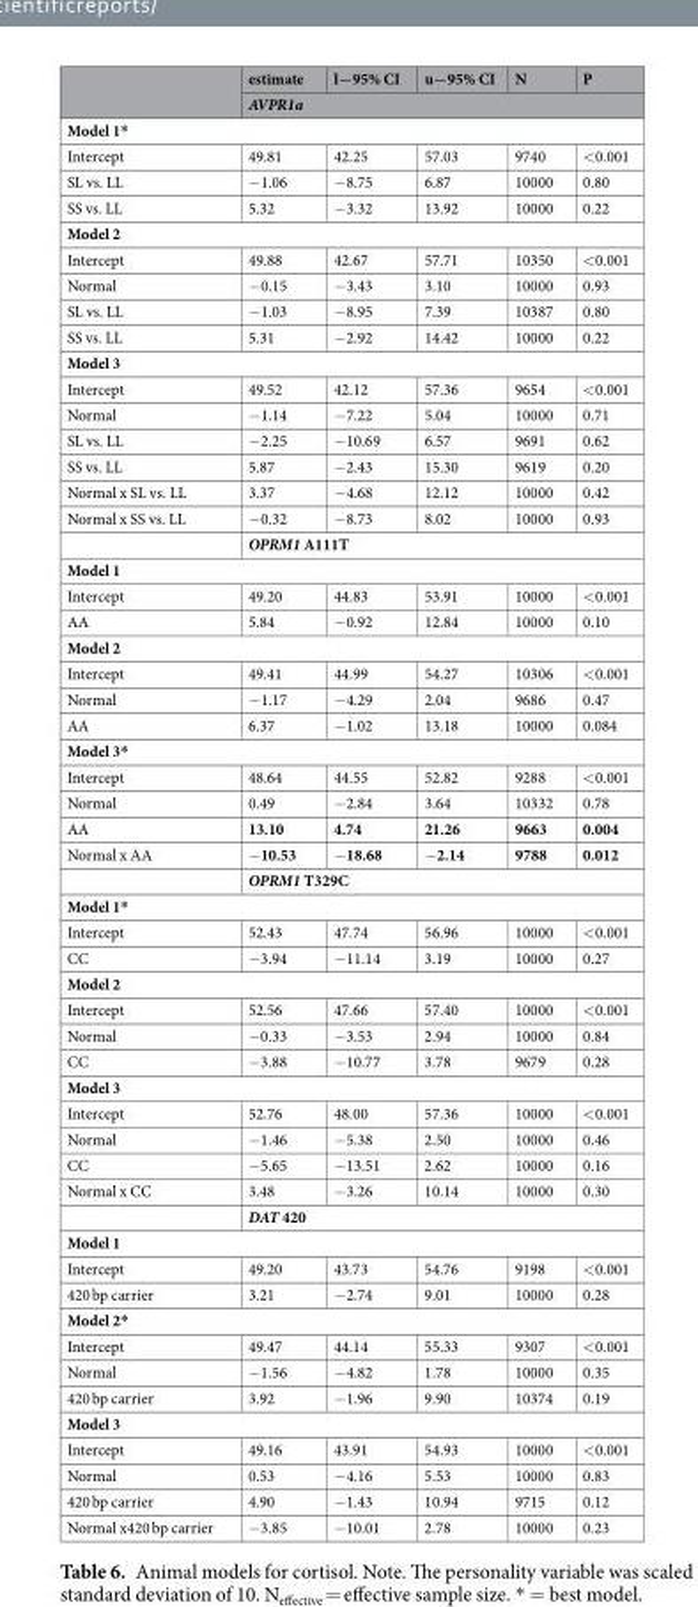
<table><thead><tr><td rowspan="2"></td><td>estimate</td><td>l−95% CI</td><td>u−95% CI</td><td>N</td><td>P</td></tr><tr><td colspan="5">AVPR1a</td></tr></thead><tbody><tr><td colspan="6">Model 1*</td></tr><tr><td>Intercept</td><td>49.81</td><td>42.25</td><td>57.03</td><td>9740</td><td>&lt;0.001</td></tr><tr><td>SL vs. LL</td><td>−1.06</td><td>−8.75</td><td>6.87</td><td>10000</td><td>0.80</td></tr><tr><td>SS vs. LL</td><td>5.32</td><td>−3.32</td><td>13.92</td><td>10000</td><td>0.22</td></tr><tr><td colspan="6">Model 2</td></tr><tr><td>Intercept</td><td>49.88</td><td>42.67</td><td>57.71</td><td>10350</td><td>&lt;0.001</td></tr><tr><td>Normal</td><td>−0.15</td><td>−3.43</td><td>3.10</td><td>10000</td><td>0.93</td></tr><tr><td>SL vs. LL</td><td>−1.03</td><td>−8.95</td><td>7.39</td><td>10387</td><td>0.80</td></tr><tr><td>SS vs. LL</td><td>5.31</td><td>−2.92</td><td>14.42</td><td>10000</td><td>0.22</td></tr><tr><td colspan="6">Model 3</td></tr><tr><td>Intercept</td><td>49.52</td><td>42.12</td><td>57.36</td><td>9654</td><td>&lt;0.001</td></tr><tr><td>Normal</td><td>−1.14</td><td>−7.22</td><td>5.04</td><td>10000</td><td>0.71</td></tr><tr><td>SL vs. LL</td><td>−2.25</td><td>−10.69</td><td>6.57</td><td>9691</td><td>0.62</td></tr><tr><td>SS vs. LL</td><td>5.87</td><td>−2.43</td><td>15.30</td><td>9619</td><td>0.20</td></tr><tr><td>Normal x SL vs. LL</td><td>3.37</td><td>−4.68</td><td>12.12</td><td>10000</td><td>0.42</td></tr><tr><td rowspan="2">Normal x SS vs. LL</td><td>−0.32</td><td>−8.73</td><td>8.02</td><td>10000</td><td>0.93</td></tr><tr><td colspan="5">OPRM1 A111T</td></tr><tr><td colspan="6">Model 1</td></tr><tr><td>Intercept</td><td>49.20</td><td>44.83</td><td>53.91</td><td>10000</td><td>&lt;0.001</td></tr><tr><td>AA</td><td>5.84</td><td>−0.92</td><td>12.84</td><td>10000</td><td>0.10</td></tr><tr><td colspan="6">Model 2</td></tr><tr><td>Intercept</td><td>49.41</td><td>44.99</td><td>54.27</td><td>10306</td><td>&lt;0.001</td></tr><tr><td>Normal</td><td>−1.17</td><td>−4.29</td><td>2.04</td><td>9686</td><td>0.47</td></tr><tr><td>AA</td><td>6.37</td><td>−1.02</td><td>13.18</td><td>10000</td><td>0.084</td></tr><tr><td colspan="6">Model 3*</td></tr><tr><td>Intercept</td><td>48.64</td><td>44.55</td><td>52.82</td><td>9288</td><td>&lt;0.001</td></tr><tr><td>Normal</td><td>0.49</td><td>−2.84</td><td>3.64</td><td>10332</td><td>0.78</td></tr><tr><td>AA</td><td>13.10</td><td>4.74</td><td>21.26</td><td>9663</td><td>0.004</td></tr><tr><td rowspan="2">Normal x AA</td><td>−10.53</td><td>−18.68</td><td>−2.14</td><td>9788</td><td>0.012</td></tr><tr><td colspan="5">OPRM1 T329C</td></tr><tr><td colspan="6">Model 1*</td></tr><tr><td>Intercept</td><td>52.43</td><td>47.74</td><td>56.96</td><td>10000</td><td>&lt;0.001</td></tr><tr><td>CC</td><td>−3.94</td><td>−11.14</td><td>3.19</td><td>10000</td><td>0.27</td></tr><tr><td colspan="6">Model 2</td></tr><tr><td>Intercept</td><td>52.56</td><td>47.66</td><td>57.40</td><td>10000</td><td>&lt;0.001</td></tr><tr><td>Normal</td><td>−0.33</td><td>−3.53</td><td>2.94</td><td>10000</td><td>0.84</td></tr><tr><td>CC</td><td>−3.88</td><td>−10.77</td><td>3.78</td><td>9679</td><td>0.28</td></tr><tr><td colspan="6">Model 3</td></tr><tr><td>Intercept</td><td>52.76</td><td>48.00</td><td>57.36</td><td>10000</td><td>&lt;0.001</td></tr><tr><td>Normal</td><td>−1.46</td><td>−5.38</td><td>2.50</td><td>10000</td><td>0.46</td></tr><tr><td>CC</td><td>−5.65</td><td>−13.51</td><td>2.62</td><td>10000</td><td>0.16</td></tr><tr><td rowspan="2">Normal x CC</td><td>3.48</td><td>−3.26</td><td>10.14</td><td>10000</td><td>0.30</td></tr><tr><td colspan="5">DAT 420</td></tr><tr><td colspan="6">Model 1</td></tr><tr><td>Intercept</td><td>49.20</td><td>43.73</td><td>54.76</td><td>9198</td><td>&lt;0.001</td></tr><tr><td>420 bp carrier</td><td>3.21</td><td>−2.74</td><td>9.01</td><td>10000</td><td>0.28</td></tr><tr><td colspan="6">Model 2*</td></tr><tr><td>Intercept</td><td>49.47</td><td>44.14</td><td>55.33</td><td>9307</td><td>&lt;0.001</td></tr><tr><td>Normal</td><td>−1.56</td><td>−4.82</td><td>1.78</td><td>10000</td><td>0.35</td></tr><tr><td>420 bp carrier</td><td>3.92</td><td>−1.96</td><td>9.90</td><td>10374</td><td>0.19</td></tr><tr><td colspan="6">Model 3</td></tr><tr><td>Intercept</td><td>49.16</td><td>43.91</td><td>54.93</td><td>10000</td><td>&lt;0.001</td></tr><tr><td>Normal</td><td>0.53</td><td>−4.16</td><td>5.53</td><td>10000</td><td>0.83</td></tr><tr><td>420 bp carrier</td><td>4.90</td><td>−1.43</td><td>10.94</td><td>9715</td><td>0.12</td></tr><tr><td>Normal x420 bp carrier</td><td>−3.85</td><td>−10.01</td><td>2.78</td><td>10000</td><td>0.23</td></tr></tbody></table>